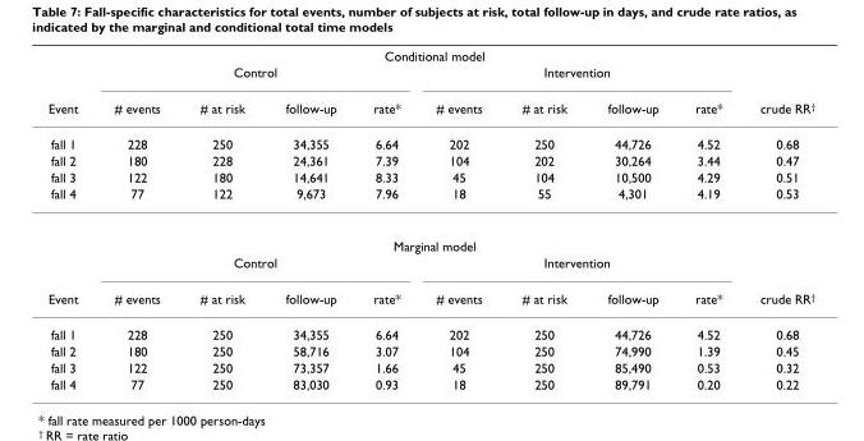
<table><thead><tr><td colspan="10">Conditional model</td></tr><tr><td rowspan="2">Event</td><td colspan="4">Control</td><td colspan="4">Intervention</td><td rowspan="2">crude RR<sup>†</sup></td></tr><tr><td># events</td><td># at risk</td><td>follow-up</td><td>rate*</td><td># events</td><td># at risk</td><td>follow-up</td><td>rate*</td></tr></thead><tbody><tr><td>fall 1</td><td>228</td><td>250</td><td>34,355</td><td>6.64</td><td>202</td><td>250</td><td>44,726</td><td>4.52</td><td>0.68</td></tr><tr><td>fall 2</td><td>180</td><td>228</td><td>24,361</td><td>7.39</td><td>104</td><td>202</td><td>30,264</td><td>3.44</td><td>0.47</td></tr><tr><td>fall 3</td><td>122</td><td>180</td><td>14,641</td><td>8.33</td><td>45</td><td>104</td><td>10,500</td><td>4.29</td><td>0.51</td></tr><tr><td>fall 4</td><td>77</td><td>122</td><td>9,673</td><td>7.96</td><td>18</td><td>55</td><td>4,301</td><td>4.19</td><td>0.53</td></tr><tr><td colspan="10">Marginal model</td></tr><tr><td></td><td colspan="4">Control</td><td colspan="4">Intervention</td><td></td></tr><tr><td>Event</td><td># events</td><td># at risk</td><td>follow-up</td><td>rate*</td><td># events</td><td># at risk</td><td>follow-up</td><td>rate*</td><td>crude RR<sup>†</sup></td></tr><tr><td>fall 1</td><td>228</td><td>250</td><td>34,355</td><td>6.64</td><td>202</td><td>250</td><td>44,726</td><td>4.52</td><td>0.68</td></tr><tr><td>fall 2</td><td>180</td><td>250</td><td>58,716</td><td>3.07</td><td>104</td><td>250</td><td>74,990</td><td>1.39</td><td>0.45</td></tr><tr><td>fall 3</td><td>122</td><td>250</td><td>73,357</td><td>1.66</td><td>45</td><td>250</td><td>85,490</td><td>0.53</td><td>0.32</td></tr><tr><td>fall 4</td><td>77</td><td>250</td><td>83,030</td><td>0.93</td><td>18</td><td>250</td><td>89,791</td><td>0.20</td><td>0.22</td></tr></tbody></table>